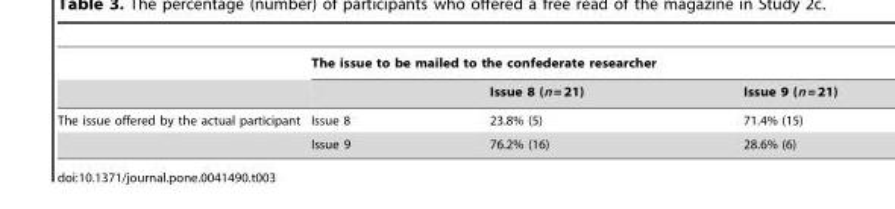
<table><thead><tr><td rowspan="2"></td><td colspan="3">The issue to be mailed to the confederate researcher</td></tr><tr><td></td><td>Issue 8 (n = 21)</td><td>Issue 9 (n = 21)</td></tr></thead><tbody><tr><td rowspan="2">The issue offered by the actual participant</td><td>Issue 8</td><td>23.8% (5)</td><td>71.4% (15)</td></tr><tr><td>Issue 9</td><td>76.2% (16)</td><td>28.6% (6)</td></tr></tbody></table>